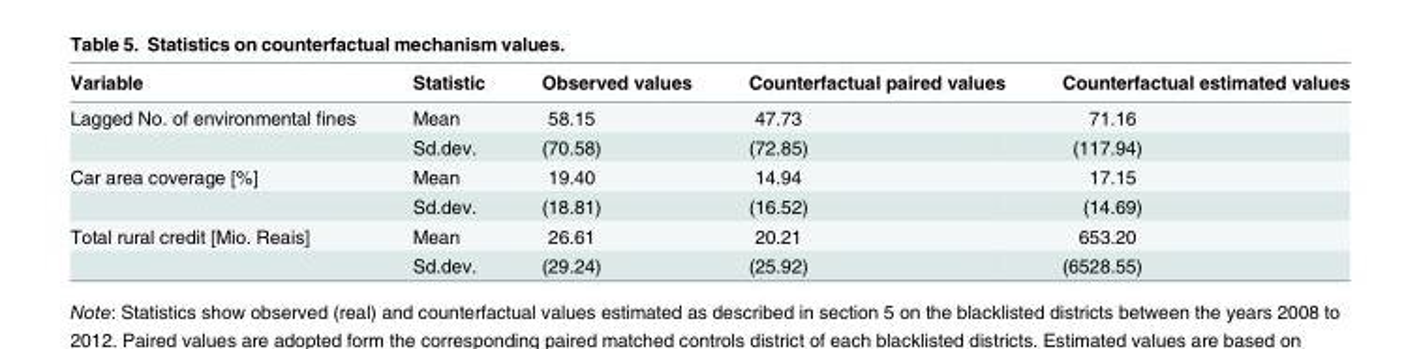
<table><thead><tr><td>Variable</td><td>Statistic</td><td>Observed values</td><td>Counterfactual paired values</td><td>Counterfactual estimated values</td></tr></thead><tbody><tr><td rowspan="2">Lagged No. of environmental fines</td><td>Mean</td><td>58.15</td><td>47.73</td><td>71.16</td></tr><tr><td>Sd.dev.</td><td>(70.58)</td><td>(72.85)</td><td>(117.94)</td></tr><tr><td rowspan="2">Car area coverage [%]</td><td>Mean</td><td>19.40</td><td>14.94</td><td>17.15</td></tr><tr><td>Sd.dev.</td><td>(18.81)</td><td>(16.52)</td><td>(14.69)</td></tr><tr><td rowspan="2">Total rural credit [Mio. Reais]</td><td>Mean</td><td>26.61</td><td>20.21</td><td>653.20</td></tr><tr><td>Sd.dev.</td><td>(29.24)</td><td>(25.92)</td><td>(6528.55)</td></tr></tbody></table>